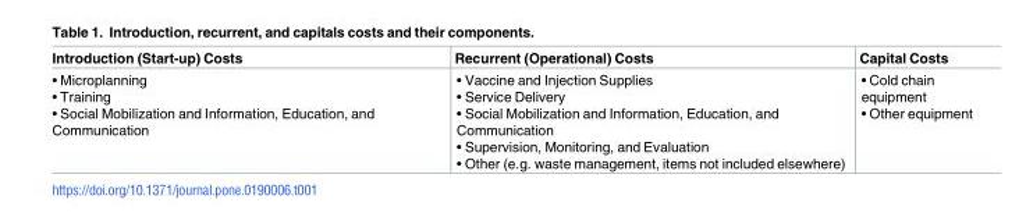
<table><thead><tr><td>Introduction (Start-up) Costs</td><td>Recurrent (Operational) Costs</td><td>Capital Costs</td></tr></thead><tbody><tr><td>• Microplanning • Training • Social Mobilization and Information, Education, and Communication</td><td>• Vaccine and Injection Supplies • Service Delivery • Social Mobilization and Information, Education, and Communication • Supervision, Monitoring, and Evaluation • Other (e.g. waste management, items not included elsewhere)</td><td>• Cold chain equipment • Other equipment</td></tr></tbody></table>